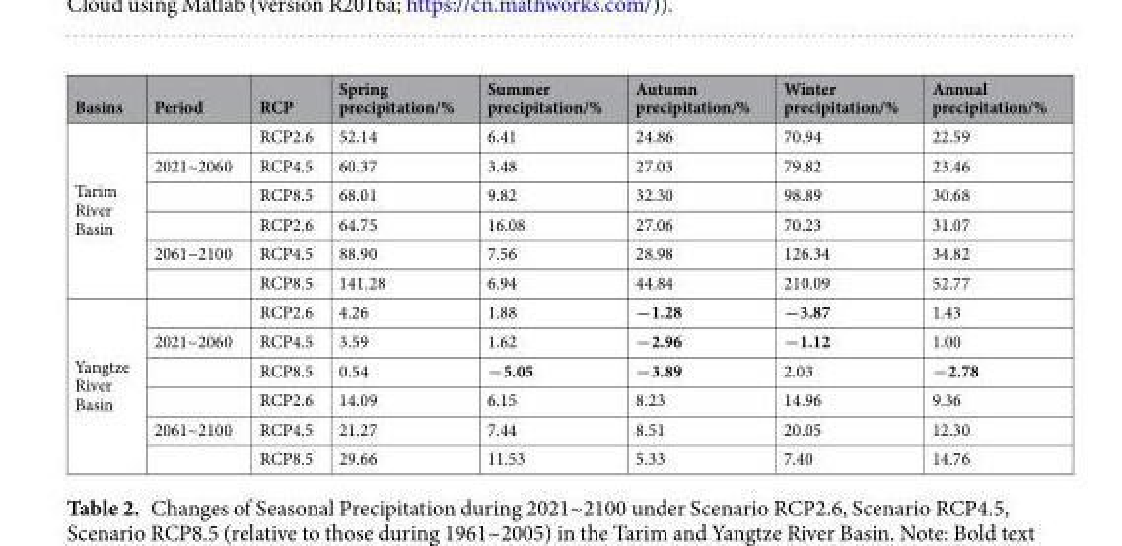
<table><thead><tr><td>Basins</td><td>Period</td><td>RCP</td><td>Spring precipitation/%</td><td>Summer precipitation/%</td><td>Autumn precipitation/%</td><td>Winter precipitation/%</td><td>Annual precipitation/%</td></tr></thead><tbody><tr><td rowspan="6">Tarim River Basin</td><td></td><td>RCP2.6</td><td>52.14</td><td>6.41</td><td>24.86</td><td>70.94</td><td>22.59</td></tr><tr><td>2021~2060</td><td>RCP4.5</td><td>60.37</td><td>3.48</td><td>27.03</td><td>79.82</td><td>23.46</td></tr><tr><td></td><td>RCP8.5</td><td>68.01</td><td>9.82</td><td>32.30</td><td>98.89</td><td>30.68</td></tr><tr><td></td><td>RCP2.6</td><td>64.75</td><td>16.08</td><td>27.06</td><td>70.23</td><td>31.07</td></tr><tr><td>2061~2100</td><td>RCP4.5</td><td>88.90</td><td>7.56</td><td>28.98</td><td>126.34</td><td>34.82</td></tr><tr><td></td><td>RCP8.5</td><td>141.28</td><td>6.94</td><td>44.84</td><td>210.09</td><td>52.77</td></tr><tr><td rowspan="6">Yangtze River Basin</td><td></td><td>RCP2.6</td><td>4.26</td><td>1.88</td><td>−1.28</td><td>−3.87</td><td>1.43</td></tr><tr><td>2021~2060</td><td>RCP4.5</td><td>3.59</td><td>1.62</td><td>−2.96</td><td>−1.12</td><td>1.00</td></tr><tr><td></td><td>RCP8.5</td><td>0.54</td><td>−5.05</td><td>−3.89</td><td>2.03</td><td>−2.78</td></tr><tr><td></td><td>RCP2.6</td><td>14.09</td><td>6.15</td><td>8.23</td><td>14.96</td><td>9.36</td></tr><tr><td>2061~2100</td><td>RCP4.5</td><td>21.27</td><td>7.44</td><td>8.51</td><td>20.05</td><td>12.30</td></tr><tr><td></td><td>RCP8.5</td><td>29.66</td><td>11.53</td><td>5.33</td><td>7.40</td><td>14.76</td></tr></tbody></table>